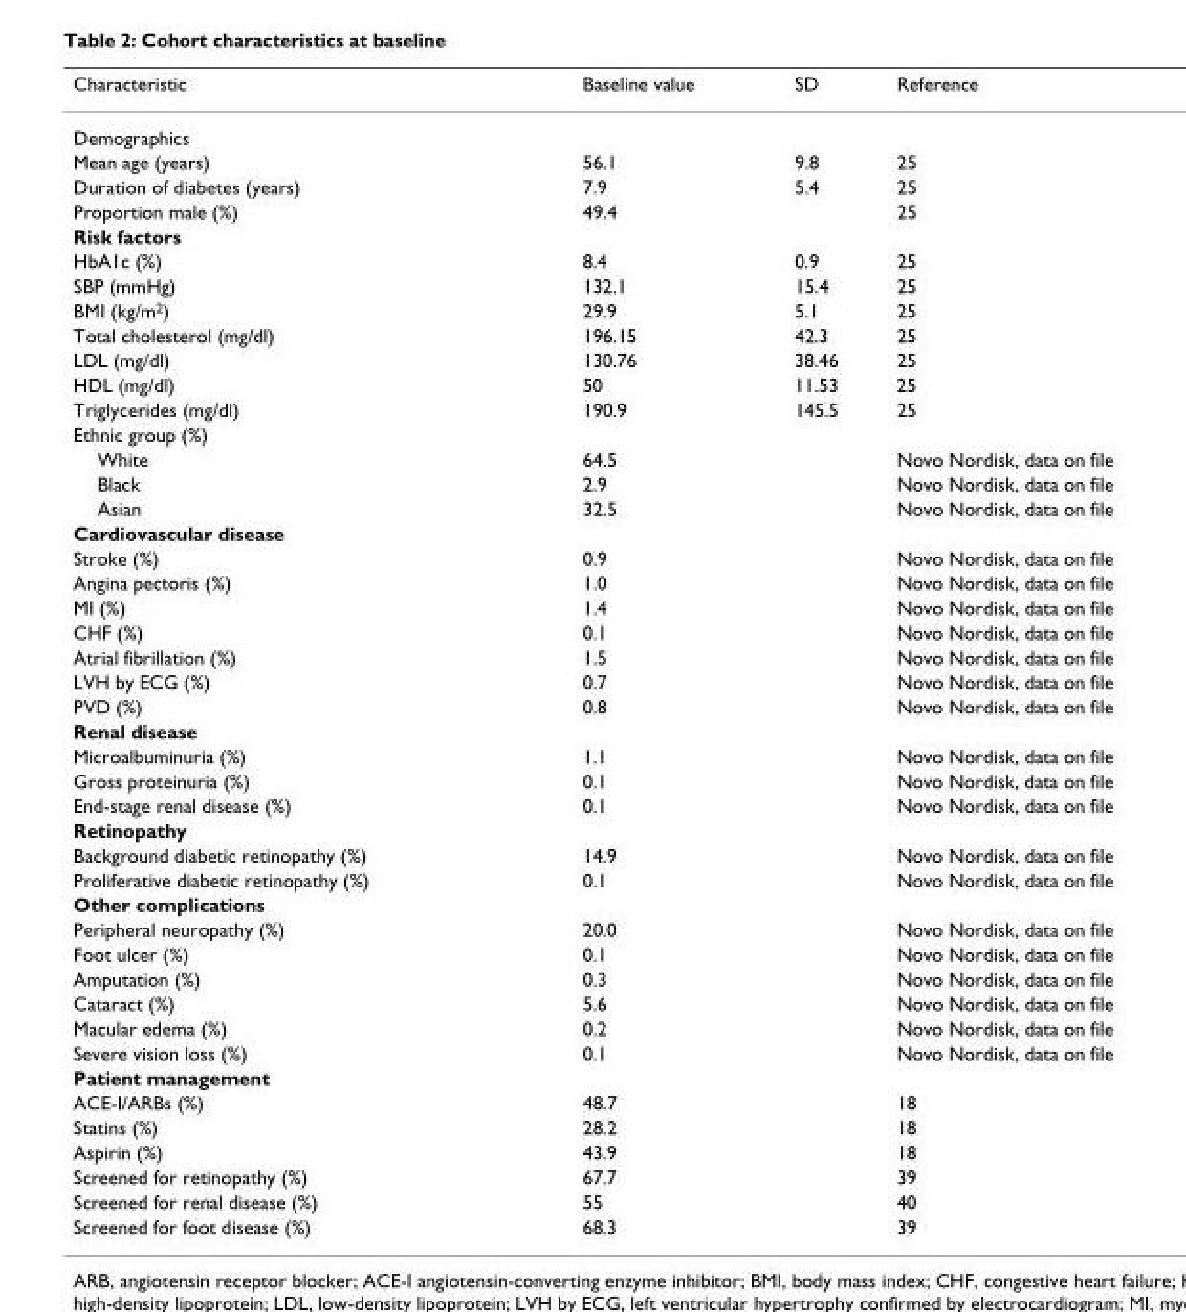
<table><thead><tr><td>Characteristic</td><td>Baseline value</td><td>SD</td><td>Reference</td></tr></thead><tbody><tr><td colspan="4">Demographics</td></tr><tr><td>Mean age (years)</td><td>56.1</td><td>9.8</td><td>25</td></tr><tr><td>Duration of diabetes (years)</td><td>7.9</td><td>5.4</td><td>25</td></tr><tr><td>Proportion male (%)</td><td>49.4</td><td></td><td>25</td></tr><tr><td colspan="4">Risk factors</td></tr><tr><td>HbA1c (%)</td><td>8.4</td><td>0.9</td><td>25</td></tr><tr><td>SBP (mmHg)</td><td>132.1</td><td>15.4</td><td>25</td></tr><tr><td>BMI (kg/m<sup>2</sup>)</td><td>29.9</td><td>5.1</td><td>25</td></tr><tr><td>Total cholesterol (mg/dl)</td><td>196.15</td><td>42.3</td><td>25</td></tr><tr><td>LDL (mg/dl)</td><td>130.76</td><td>38.46</td><td>25</td></tr><tr><td>HDL (mg/dl)</td><td>50</td><td>11.53</td><td>25</td></tr><tr><td>Triglycerides (mg/dl)</td><td>190.9</td><td>145.5</td><td>25</td></tr><tr><td colspan="4">Ethnic group (%)</td></tr><tr><td>White</td><td>64.5</td><td></td><td>Novo Nordisk, data on file</td></tr><tr><td>Black</td><td>2.9</td><td></td><td>Novo Nordisk, data on file</td></tr><tr><td>Asian</td><td>32.5</td><td></td><td>Novo Nordisk, data on file</td></tr><tr><td colspan="4">Cardiovascular disease</td></tr><tr><td>Stroke (%)</td><td>0.9</td><td></td><td>Novo Nordisk, data on file</td></tr><tr><td>Angina pectoris (%)</td><td>1.0</td><td></td><td>Novo Nordisk, data on file</td></tr><tr><td>MI (%)</td><td>1.4</td><td></td><td>Novo Nordisk, data on file</td></tr><tr><td>CHF (%)</td><td>0.1</td><td></td><td>Novo Nordisk, data on file</td></tr><tr><td>Atrial fibrillation (%)</td><td>1.5</td><td></td><td>Novo Nordisk, data on file</td></tr><tr><td>LVH by ECG (%)</td><td>0.7</td><td></td><td>Novo Nordisk, data on file</td></tr><tr><td>PVD (%)</td><td>0.8</td><td></td><td>Novo Nordisk, data on file</td></tr><tr><td colspan="4">Renal disease</td></tr><tr><td>Microalbuminuria (%)</td><td>1.1</td><td></td><td>Novo Nordisk, data on file</td></tr><tr><td>Gross proteinuria (%)</td><td>0.1</td><td></td><td>Novo Nordisk, data on file</td></tr><tr><td>End-stage renal disease (%)</td><td>0.1</td><td></td><td>Novo Nordisk, data on file</td></tr><tr><td colspan="4">Retinopathy</td></tr><tr><td>Background diabetic retinopathy (%)</td><td>14.9</td><td></td><td>Novo Nordisk, data on file</td></tr><tr><td>Proliferative diabetic retinopathy (%)</td><td>0.1</td><td></td><td>Novo Nordisk, data on file</td></tr><tr><td colspan="4">Other complications</td></tr><tr><td>Peripheral neuropathy (%)</td><td>20.0</td><td></td><td>Novo Nordisk, data on file</td></tr><tr><td>Foot ulcer (%)</td><td>0.1</td><td></td><td>Novo Nordisk, data on file</td></tr><tr><td>Amputation (%)</td><td>0.3</td><td></td><td>Novo Nordisk, data on file</td></tr><tr><td>Cataract (%)</td><td>5.6</td><td></td><td>Novo Nordisk, data on file</td></tr><tr><td>Macular edema (%)</td><td>0.2</td><td></td><td>Novo Nordisk, data on file</td></tr><tr><td>Severe vision loss (%)</td><td>0.1</td><td></td><td>Novo Nordisk, data on file</td></tr><tr><td colspan="4">Patient management</td></tr><tr><td>ACE-I/ARBs (%)</td><td>48.7</td><td></td><td>18</td></tr><tr><td>Statins (%)</td><td>28.2</td><td></td><td>18</td></tr><tr><td>Aspirin (%)</td><td>43.9</td><td></td><td>18</td></tr><tr><td>Screened for retinopathy (%)</td><td>67.7</td><td></td><td>39</td></tr><tr><td>Screened for renal disease (%)</td><td>55</td><td></td><td>40</td></tr><tr><td>Screened for foot disease (%)</td><td>68.3</td><td></td><td>39</td></tr></tbody></table>